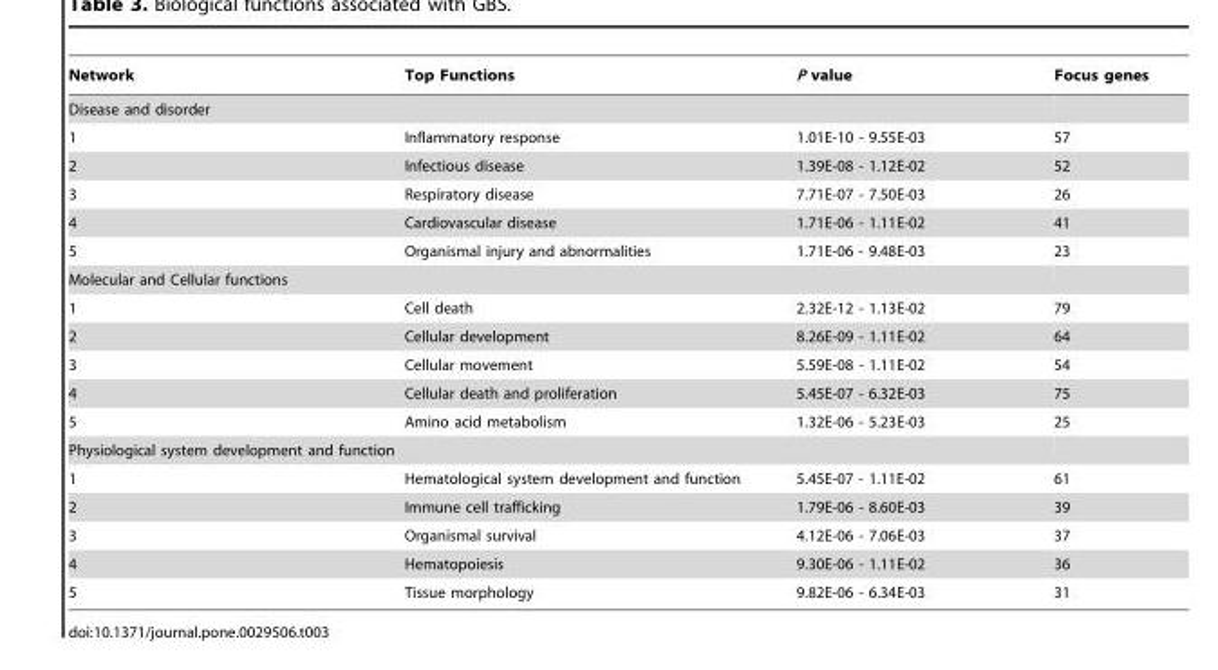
<table><thead><tr><td>Network</td><td>Top Functions</td><td>P value</td><td>Focus genes</td></tr></thead><tbody><tr><td colspan="4">Disease and disorder</td></tr><tr><td>1</td><td>Inflammatory response</td><td>1.01E-10 - 9.55E-03</td><td>57</td></tr><tr><td>2</td><td>Infectious disease</td><td>1.39E-08 - 1.12E-02</td><td>52</td></tr><tr><td>3</td><td>Respiratory disease</td><td>7.71E-07 - 7.50E-03</td><td>26</td></tr><tr><td>4</td><td>Cardiovascular disease</td><td>1.71E-06 - 1.11E-02</td><td>41</td></tr><tr><td>5</td><td>Organismal injury and abnormalities</td><td>1.71E-06 - 9.48E-03</td><td>23</td></tr><tr><td colspan="4">Molecular and Cellular functions</td></tr><tr><td>1</td><td>Cell death</td><td>2.32E-12 - 1.13E-02</td><td>79</td></tr><tr><td>2</td><td>Cellular development</td><td>8.26E-09 - 1.11E-02</td><td>64</td></tr><tr><td>3</td><td>Cellular movement</td><td>5.59E-08 - 1.11E-02</td><td>54</td></tr><tr><td>4</td><td>Cellular death and proliferation</td><td>5.45E-07 - 6.32E-03</td><td>75</td></tr><tr><td>5</td><td>Amino acid metabolism</td><td>1.32E-06 - 5.23E-03</td><td>25</td></tr><tr><td colspan="4">Physiological system development and function</td></tr><tr><td>1</td><td>Hematological system development and function</td><td>5.45E-07 - 1.11E-02</td><td>61</td></tr><tr><td>2</td><td>Immune cell trafficking</td><td>1.79E-06 - 8.60E-03</td><td>39</td></tr><tr><td>3</td><td>Organismal survival</td><td>4.12E-06 - 7.06E-03</td><td>37</td></tr><tr><td>4</td><td>Hematopoiesis</td><td>9.30E-06 - 1.11E-02</td><td>36</td></tr><tr><td>5</td><td>Tissue morphology</td><td>9.82E-06 - 6.34E-03</td><td>31</td></tr></tbody></table>